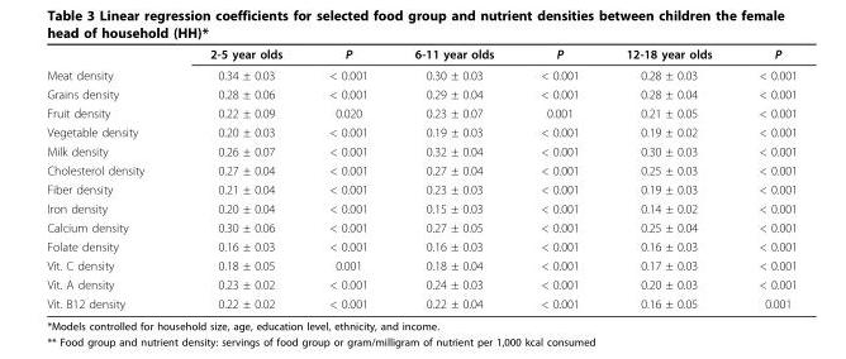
<table><thead><tr><td></td><td>2-5 year olds</td><td>P</td><td>6-11 year olds</td><td>P</td><td>12-18 year olds</td><td>P</td></tr></thead><tbody><tr><td>Meat density</td><td>0.34 ± 0.03</td><td>&lt; 0.001</td><td>0.30 ± 0.03</td><td>&lt; 0.001</td><td>0.28 ± 0.03</td><td>&lt; 0.001</td></tr><tr><td>Grains density</td><td>0.28 ± 0.06</td><td>&lt; 0.001</td><td>0.29 ± 0.04</td><td>&lt; 0.001</td><td>0.28 ± 0.04</td><td>&lt; 0.001</td></tr><tr><td>Fruit density</td><td>0.22 ± 0.09</td><td>0.020</td><td>0.23 ± 0.07</td><td>0.001</td><td>0.21 ± 0.05</td><td>&lt; 0.001</td></tr><tr><td>Vegetable density</td><td>0.20 ± 0.03</td><td>&lt; 0.001</td><td>0.19 ± 0.03</td><td>&lt; 0.001</td><td>0.19 ± 0.02</td><td>&lt; 0.001</td></tr><tr><td>Milk density</td><td>0.26 ± 0.07</td><td>&lt; 0.001</td><td>0.32 ± 0.04</td><td>&lt; 0.001</td><td>0.30 ± 0.03</td><td>&lt; 0.001</td></tr><tr><td>Cholesterol density</td><td>0.27 ± 0.04</td><td>&lt; 0.001</td><td>0.27 ± 0.04</td><td>&lt; 0.001</td><td>0.25 ± 0.03</td><td>&lt; 0.001</td></tr><tr><td>Fiber density</td><td>0.21 ± 0.04</td><td>&lt; 0.001</td><td>0.23 ± 0.03</td><td>&lt; 0.001</td><td>0.19 ± 0.03</td><td>&lt; 0.001</td></tr><tr><td>Iron density</td><td>0.20 ± 0.04</td><td>&lt; 0.001</td><td>0.15 ± 0.03</td><td>&lt; 0.001</td><td>0.14 ± 0.02</td><td>&lt; 0.001</td></tr><tr><td>Calcium density</td><td>0.30 ± 0.06</td><td>&lt; 0.001</td><td>0.27 ± 0.05</td><td>&lt; 0.001</td><td>0.25 ± 0.04</td><td>&lt; 0.001</td></tr><tr><td>Folate density</td><td>0.16 ± 0.03</td><td>&lt; 0.001</td><td>0.16 ± 0.03</td><td>&lt; 0.001</td><td>0.16 ± 0.03</td><td>&lt; 0.001</td></tr><tr><td>Vit. C density</td><td>0.18 ± 0.05</td><td>0.001</td><td>0.18 ± 0.04</td><td>&lt; 0.001</td><td>0.17 ± 0.03</td><td>&lt; 0.001</td></tr><tr><td>Vit. A density</td><td>0.23 ± 0.02</td><td>&lt; 0.001</td><td>0.24 ± 0.03</td><td>&lt; 0.001</td><td>0.20 ± 0.03</td><td>&lt; 0.001</td></tr><tr><td>Vit. B12 density</td><td>0.22 ± 0.02</td><td>&lt; 0.001</td><td>0.22 ± 0.04</td><td>&lt; 0.001</td><td>0.16 ± 0.05</td><td>0.001</td></tr></tbody></table>